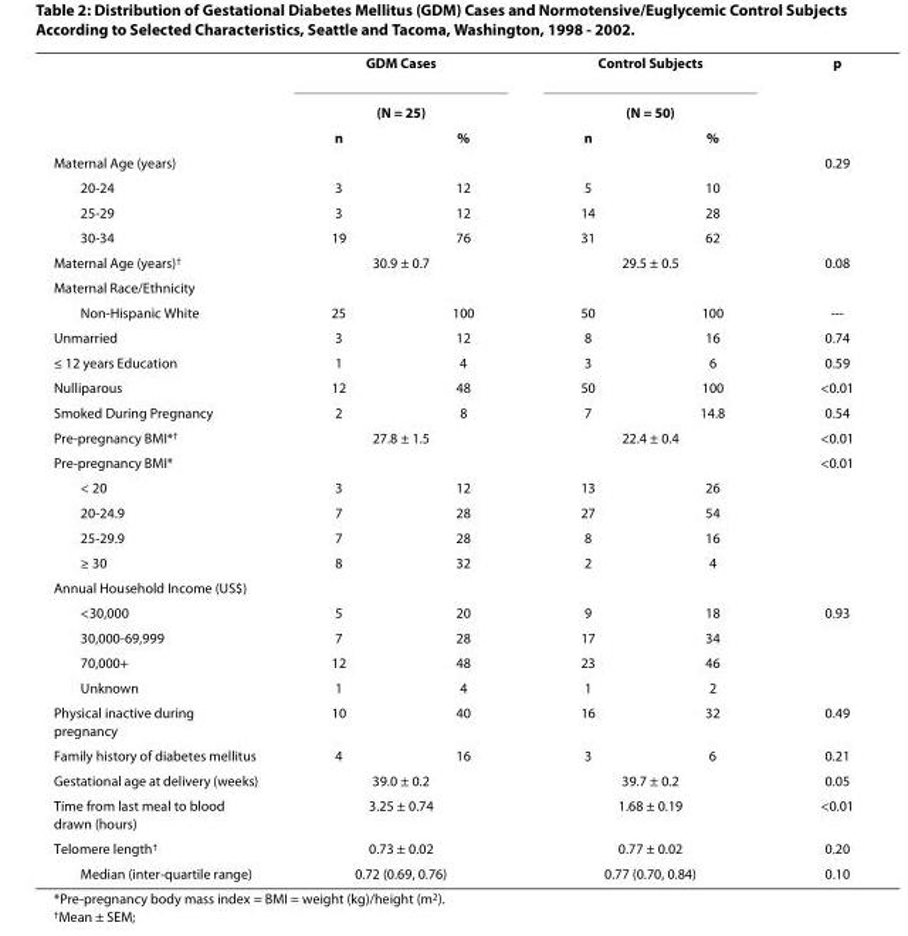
<table><thead><tr><td rowspan="3"></td><td rowspan="2" colspan="2">GDM Cases (N = 25)</td><td rowspan="2" colspan="2">Control Subjects (N = 50)</td><td rowspan="3">p</td></tr><tr></tr><tr><td>n</td><td>%</td><td>n</td><td>%</td></tr></thead><tbody><tr><td>Maternal Age (years)</td><td></td><td></td><td></td><td></td><td>0.29</td></tr><tr><td>20-24</td><td>3</td><td>12</td><td>5</td><td>10</td><td></td></tr><tr><td>25-29</td><td>3</td><td>12</td><td>14</td><td>28</td><td></td></tr><tr><td>30-34</td><td>19</td><td>76</td><td>31</td><td>62</td><td></td></tr><tr><td>Maternal Age (years)<sup>†</sup></td><td colspan="2">30.9 ± 0.7</td><td colspan="2">29.5 ± 0.5</td><td>0.08</td></tr><tr><td colspan="6">Maternal Race/Ethnicity</td></tr><tr><td>Non-Hispanic White</td><td>25</td><td>100</td><td>50</td><td>100</td><td>---</td></tr><tr><td>Unmarried</td><td>3</td><td>12</td><td>8</td><td>16</td><td>0.74</td></tr><tr><td>≤ 12 years Education</td><td>1</td><td>4</td><td>3</td><td>6</td><td>0.59</td></tr><tr><td>Nulliparous</td><td>12</td><td>48</td><td>50</td><td>100</td><td>&lt;0.01</td></tr><tr><td>Smoked During Pregnancy</td><td>2</td><td>8</td><td>7</td><td>14.8</td><td>0.54</td></tr><tr><td>Pre-pregnancy BMI*<sup>†</sup></td><td colspan="2">27.8 ± 1.5</td><td colspan="2">22.4 ± 0.4</td><td>&lt;0.01</td></tr><tr><td>Pre-pregnancy BMI*</td><td></td><td></td><td></td><td></td><td>&lt;0.01</td></tr><tr><td>&lt; 20</td><td>3</td><td>12</td><td>13</td><td>26</td><td></td></tr><tr><td>20-24.9</td><td>7</td><td>28</td><td>27</td><td>54</td><td></td></tr><tr><td>25-29.9</td><td>7</td><td>28</td><td>8</td><td>16</td><td></td></tr><tr><td>≥ 30</td><td>8</td><td>32</td><td>2</td><td>4</td><td></td></tr><tr><td colspan="6">Annual Household Income (US$)</td></tr><tr><td>&lt;30,000</td><td>5</td><td>20</td><td>9</td><td>18</td><td>0.93</td></tr><tr><td>30,000-69,999</td><td>7</td><td>28</td><td>17</td><td>34</td><td></td></tr><tr><td>70,000+</td><td>12</td><td>48</td><td>23</td><td>46</td><td></td></tr><tr><td>Unknown</td><td>1</td><td>4</td><td>1</td><td>2</td><td></td></tr><tr><td>Physical inactive during pregnancy</td><td>10</td><td>40</td><td>16</td><td>32</td><td>0.49</td></tr><tr><td>Family history of diabetes mellitus</td><td>4</td><td>16</td><td>3</td><td>6</td><td>0.21</td></tr><tr><td>Gestational age at delivery (weeks)</td><td colspan="2">39.0 ± 0.2</td><td colspan="2">39.7 ± 0.2</td><td>0.05</td></tr><tr><td>Time from last meal to blood drawn (hours)</td><td colspan="2">3.25 ± 0.74</td><td colspan="2">1.68 ± 0.19</td><td>&lt;0.01</td></tr><tr><td>Telomere length<sup>†</sup></td><td colspan="2">0.73 ± 0.02</td><td colspan="2">0.77 ± 0.02</td><td>0.20</td></tr><tr><td>Median (inter-quartile range)</td><td colspan="2">0.72 (0.69, 0.76)</td><td colspan="2">0.77 (0.70, 0.84)</td><td>0.10</td></tr></tbody></table>